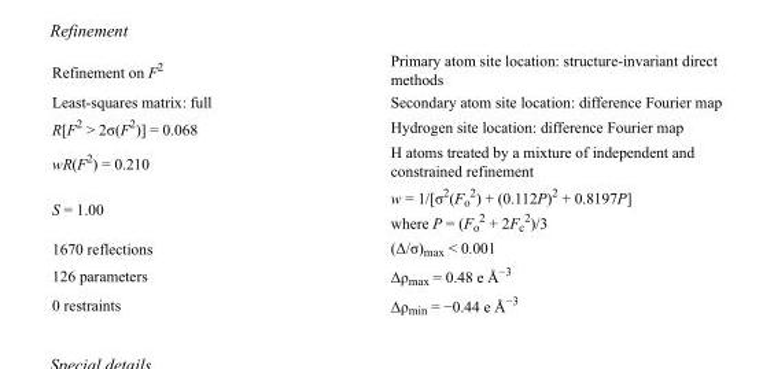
<table><tbody><tr><td>Refinement on F<sup>2</sup></td><td>Primary atom site location: structure-invariant direct methods</td></tr><tr><td>Least-squares matrix: full</td><td>Secondary atom site location: difference Fourier map</td></tr><tr><td>R[F<sup>2</sup> &gt; 2σ(F<sup>2</sup>)] = 0.068</td><td>Hydrogen site location: difference Fourier map</td></tr><tr><td>wR(F<sup>2</sup>) = 0.210</td><td>H atoms treated by a mixture of independent and constrained refinement</td></tr><tr><td>S = 1.00</td><td>w = 1/[σ<sup>2</sup>(F<sub>o</sub> <sup>2</sup>) + (0.112P)<sup>2</sup> + 0.8197P] where P = (F<sub>o</sub> <sup>2</sup> + 2F<sub>c</sub> <sup>2</sup>)/3</td></tr><tr><td>1670 reflections</td><td>(Δ/σ)<sub>max</sub> &lt; 0.001</td></tr><tr><td>126 parameters</td><td>Δρ<sub>max</sub> = 0.48 e Å<sup>−3</sup></td></tr><tr><td>0 restraints</td><td>Δρ<sub>min</sub> = −0.44 e Å<sup>−3</sup></td></tr></tbody></table>